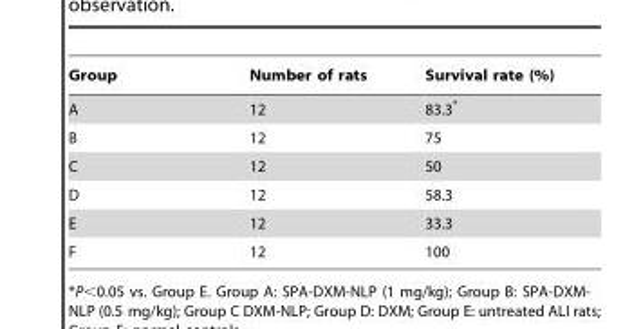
<table><thead><tr><td>Group</td><td>Number of rats</td><td>Survival rate (%)</td></tr></thead><tbody><tr><td>A</td><td>12</td><td>83.3*</td></tr><tr><td>B</td><td>12</td><td>75</td></tr><tr><td>C</td><td>12</td><td>50</td></tr><tr><td>D</td><td>12</td><td>58.3</td></tr><tr><td>E</td><td>12</td><td>33.3</td></tr><tr><td>F</td><td>12</td><td>100</td></tr></tbody></table>